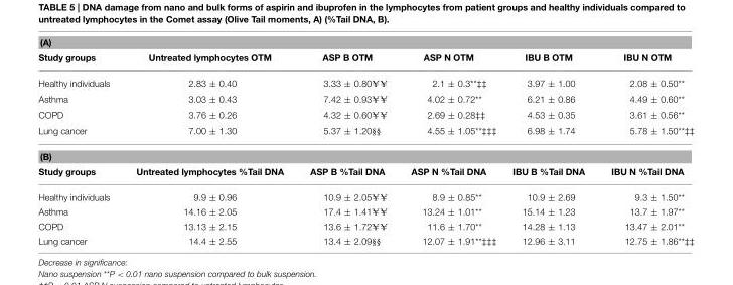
<table><thead><tr><td colspan="6">(A)</td></tr><tr><td>Study groups</td><td>Untreated lymphocytes OTM</td><td>ASP B OTM</td><td>ASP N OTM</td><td>IBU B OTM</td><td>IBU N OTM</td></tr></thead><tbody><tr><td>Healthy individuals</td><td>2.83 ± 0.40</td><td>3.33 ± 0.80<sup>¥¥</sup></td><td>2.1 ± 0.3<sup>**‡‡</sup></td><td>3.97 ± 1.00</td><td>2.08 ± 0.50**</td></tr><tr><td>Asthma</td><td>3.03 ± 0.43</td><td>7.42 ± 0.93<sup>¥¥</sup></td><td>4.02 ± 0.72**</td><td>6.21 ± 0.86</td><td>4.49 ± 0.60**</td></tr><tr><td>COPD</td><td>3.76 ± 0.26</td><td>4.32 ± 0.60<sup>¥¥</sup></td><td>2.69 ± 0.28<sup>‡‡</sup></td><td>4.53 ± 0.35</td><td>3.61 ± 0.56**</td></tr><tr><td>Lung cancer</td><td>7.00 ± 1.30</td><td>5.37 ± 1.20<sup>§§</sup></td><td>4.55 ± 1.05<sup>**‡‡‡</sup></td><td>6.98 ± 1.74</td><td>5.78 ± 1.50<sup>**‡‡</sup></td></tr><tr><td colspan="6">(B)</td></tr><tr><td>Study groups</td><td>Untreated lymphocytes %Tail DNA</td><td>ASP B %Tail DNA</td><td>ASP N %Tail DNA</td><td>IBU B %Tail DNA</td><td>IBU N %Tail DNA</td></tr><tr><td>Healthy individuals</td><td>9.9 ± 0.96</td><td>10.9 ± 2.05<sup>¥¥</sup></td><td>8.9 ± 0.85**</td><td>10.9 ± 2.69</td><td>9.3 ± 1.50**</td></tr><tr><td>Asthma</td><td>14.16 ± 2.05</td><td>17.4 ± 1.41<sup>¥¥</sup></td><td>13.24 ± 1.01**</td><td>15.14 ± 1.23</td><td>13.7 ± 1.97**</td></tr><tr><td>COPD</td><td>13.13 ± 2.15</td><td>13.6 ± 1.72<sup>¥¥</sup></td><td>11.6 ± 1.70**</td><td>14.28 ± 1.13</td><td>13.47 ± 2.01**</td></tr><tr><td>Lung cancer</td><td>14.4 ± 2.55</td><td>13.4 ± 2.09<sup>§§</sup></td><td>12.07 ± 1.91<sup>**‡‡‡</sup></td><td>12.96 ± 3.11</td><td>12.75 ± 1.86<sup>**‡‡</sup></td></tr></tbody></table>